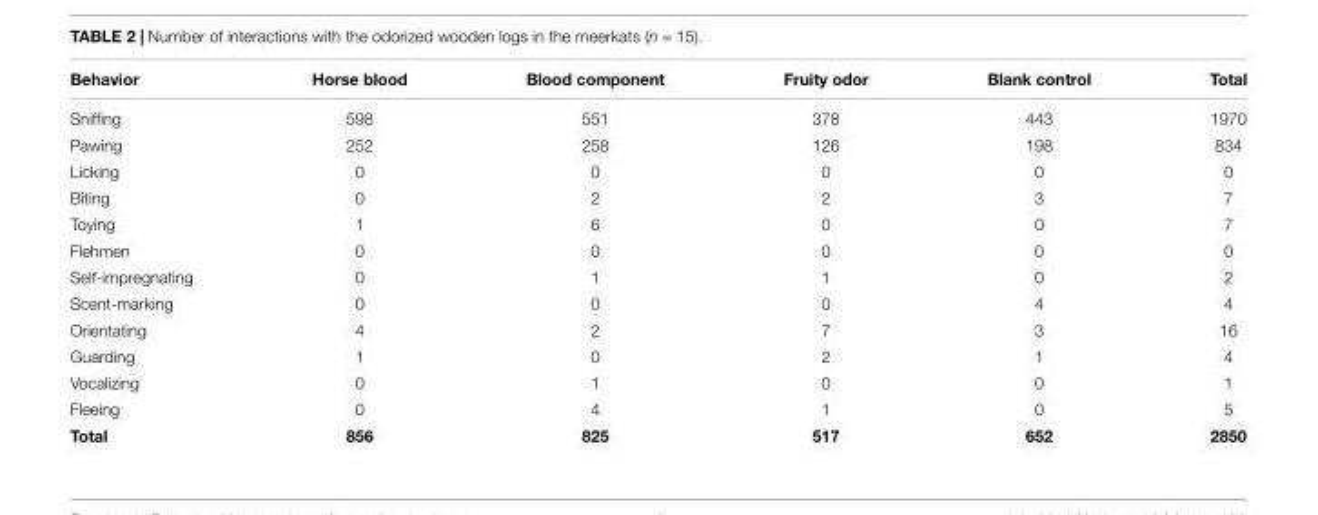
<table><thead><tr><td>Behavior</td><td>Horse blood</td><td>Blood component</td><td>Fruity odor</td><td>Blank control</td><td>Total</td></tr></thead><tbody><tr><td>Sniffing</td><td>598</td><td>551</td><td>378</td><td>443</td><td>1970</td></tr><tr><td>Pawing</td><td>252</td><td>258</td><td>126</td><td>198</td><td>834</td></tr><tr><td>Licking</td><td>0</td><td>0</td><td>0</td><td>0</td><td>0</td></tr><tr><td>Biting</td><td>0</td><td>2</td><td>2</td><td>3</td><td>7</td></tr><tr><td>Toying</td><td>1</td><td>6</td><td>0</td><td>0</td><td>7</td></tr><tr><td>Flehmen</td><td>0</td><td>0</td><td>0</td><td>0</td><td>0</td></tr><tr><td>Self-impregnating</td><td>0</td><td>1</td><td>1</td><td>0</td><td>2</td></tr><tr><td>Scent-marking</td><td>0</td><td>0</td><td>0</td><td>4</td><td>4</td></tr><tr><td>Orientating</td><td>4</td><td>2</td><td>7</td><td>3</td><td>16</td></tr><tr><td>Guarding</td><td>1</td><td>0</td><td>2</td><td>1</td><td>4</td></tr><tr><td>Vocalizing</td><td>0</td><td>1</td><td>0</td><td>0</td><td>1</td></tr><tr><td>Fleeing</td><td>0</td><td>4</td><td>1</td><td>0</td><td>5</td></tr><tr><td>Total</td><td>856</td><td>825</td><td>517</td><td>652</td><td>2850</td></tr></tbody></table>